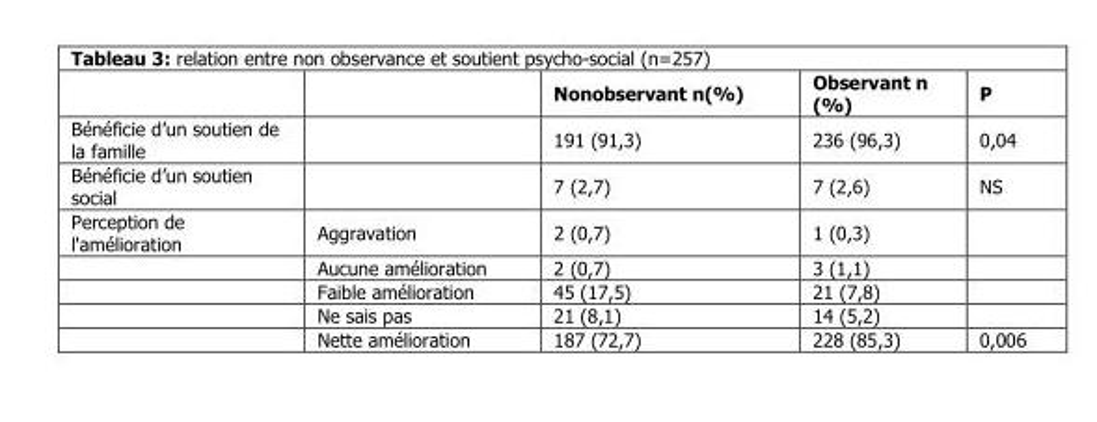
<table><thead><tr><td></td><td></td><td>Nonobservant n(%)</td><td>Observant n (%)</td><td>P</td></tr></thead><tbody><tr><td>Bénéficie d’un soutien de la famille</td><td></td><td>191 (91,3)</td><td>236 (96,3)</td><td>0,04</td></tr><tr><td>Bénéficie d’un soutien social</td><td></td><td>7 (2,7)</td><td>7 (2,6)</td><td>NS</td></tr><tr><td rowspan="5">Perception de l&#x27;amélioration</td><td>Aggravation</td><td>2 (0,7)</td><td>1 (0,3)</td><td></td></tr><tr><td>Aucune amélioration</td><td>2 (0,7)</td><td>3 (1,1)</td><td></td></tr><tr><td>Faible amélioration</td><td>45 (17,5)</td><td>21 (7,8)</td><td></td></tr><tr><td>Ne sais pas</td><td>21 (8,1)</td><td>14 (5,2)</td><td></td></tr><tr><td>Nette amélioration</td><td>187 (72,7)</td><td>228 (85,3)</td><td>0,006</td></tr></tbody></table>